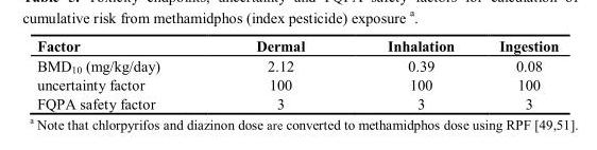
<table><thead><tr><td>Factor</td><td>Dermal</td><td>Inhalation</td><td>Ingestion</td></tr></thead><tbody><tr><td>BMD<sub>10</sub> (mg/kg/day)</td><td>2.12</td><td>0.39</td><td>0.08</td></tr><tr><td>uncertainty factor</td><td>100</td><td>100</td><td>100</td></tr><tr><td>FQPA safety factor</td><td>3</td><td>3</td><td>3</td></tr></tbody></table>